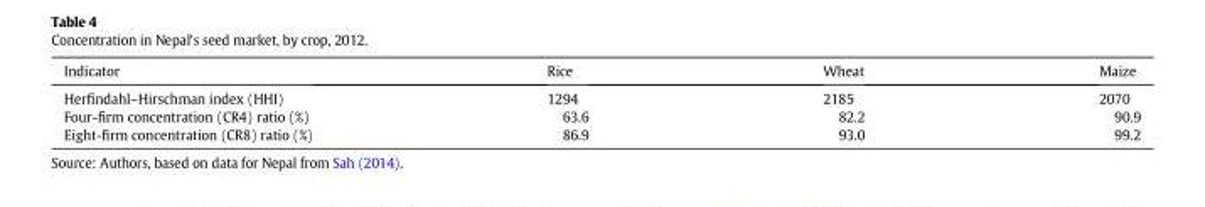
<table><thead><tr><td>Indicator</td><td>Rice</td><td>Wheat</td><td>Maize</td></tr></thead><tbody><tr><td>Herfindahl–Hirschman index (HHI)</td><td>1294</td><td>2185</td><td>2070</td></tr><tr><td>Four-firm concentration (CR4) ratio (%)</td><td>63.6</td><td>82.2</td><td>90.9</td></tr><tr><td>Eight-firm concentration (CR8) ratio (%)</td><td>86.9</td><td>93.0</td><td>99.2</td></tr></tbody></table>